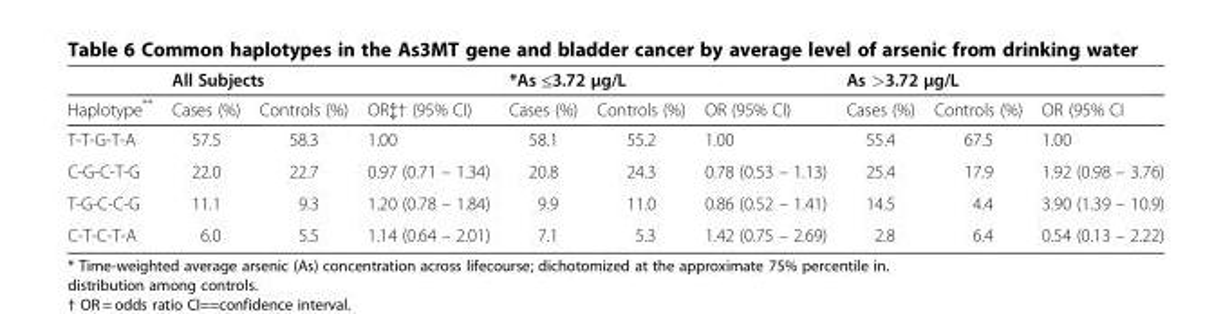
<table><thead><tr><td rowspan="2">Haplotype**</td><td colspan="3">All Subjects</td><td colspan="3">*As ≤3.72 μg/L</td><td colspan="3">As &gt;3.72 μg/L</td></tr><tr><td>Cases (%)</td><td>Controls (%)</td><td>OR‡† (95% CI)</td><td>Cases (%)</td><td>Controls (%)</td><td>OR (95% CI)</td><td>Cases (%)</td><td>Controls (%)</td><td>OR (95% CI</td></tr></thead><tbody><tr><td>T-T-G-T-A</td><td>57.5</td><td>58.3</td><td>1.00</td><td>58.1</td><td>55.2</td><td>1.00</td><td>55.4</td><td>67.5</td><td>1.00</td></tr><tr><td>C-G-C-T-G</td><td>22.0</td><td>22.7</td><td>0.97 (0.71 – 1.34)</td><td>20.8</td><td>24.3</td><td>0.78 (0.53 – 1.13)</td><td>25.4</td><td>17.9</td><td>1.92 (0.98 – 3.76)</td></tr><tr><td>T-G-C-C-G</td><td>11.1</td><td>9.3</td><td>1.20 (0.78 – 1.84)</td><td>9.9</td><td>11.0</td><td>0.86 (0.52 – 1.41)</td><td>14.5</td><td>4.4</td><td>3.90 (1.39 – 10.9)</td></tr><tr><td>C-T-C-T-A</td><td>6.0</td><td>5.5</td><td>1.14 (0.64 – 2.01)</td><td>7.1</td><td>5.3</td><td>1.42 (0.75 – 2.69)</td><td>2.8</td><td>6.4</td><td>0.54 (0.13 – 2.22)</td></tr></tbody></table>